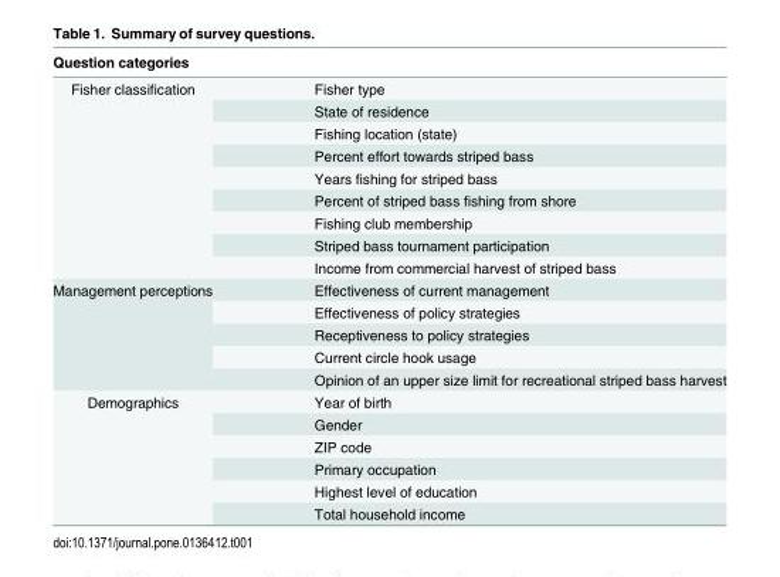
<table><thead><tr><td>Question categories</td><td></td></tr></thead><tbody><tr><td rowspan="9">Fisher classification</td><td>Fisher type</td></tr><tr><td>State of residence</td></tr><tr><td>Fishing location (state)</td></tr><tr><td>Percent effort towards striped bass</td></tr><tr><td>Years fishing for striped bass</td></tr><tr><td>Percent of striped bass fishing from shore</td></tr><tr><td>Fishing club membership</td></tr><tr><td>Striped bass tournament participation</td></tr><tr><td>Income from commercial harvest of striped bass</td></tr><tr><td rowspan="5">Management perceptions</td><td>Effectiveness of current management</td></tr><tr><td>Effectiveness of policy strategies</td></tr><tr><td>Receptiveness to policy strategies</td></tr><tr><td>Current circle hook usage</td></tr><tr><td>Opinion of an upper size limit for recreational striped bass harvest</td></tr><tr><td rowspan="6">Demographics</td><td>Year of birth</td></tr><tr><td>Gender</td></tr><tr><td>ZIP code</td></tr><tr><td>Primary occupation</td></tr><tr><td>Highest level of education</td></tr><tr><td>Total household income</td></tr></tbody></table>